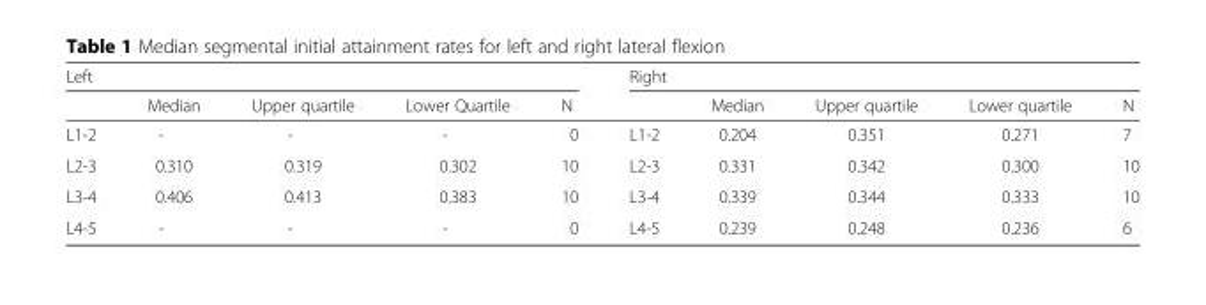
<table><thead><tr><td colspan="5">Left</td><td colspan="5">Right</td></tr><tr><td></td><td>Median</td><td>Upper quartile</td><td>Lower Quartile</td><td>N</td><td></td><td>Median</td><td>Upper quartile</td><td>Lower quartile</td><td>N</td></tr></thead><tbody><tr><td>L1-2</td><td>-</td><td>-</td><td>-</td><td>0</td><td>L1-2</td><td>0.204</td><td>0.351</td><td>0.271</td><td>7</td></tr><tr><td>L2-3</td><td>0.310</td><td>0.319</td><td>0.302</td><td>10</td><td>L2-3</td><td>0.331</td><td>0.342</td><td>0.300</td><td>10</td></tr><tr><td>L3-4</td><td>0.406</td><td>0.413</td><td>0.383</td><td>10</td><td>L3-4</td><td>0.339</td><td>0.344</td><td>0.333</td><td>10</td></tr><tr><td>L4-5</td><td>-</td><td>-</td><td>-</td><td>0</td><td>L4-5</td><td>0.239</td><td>0.248</td><td>0.236</td><td>6</td></tr></tbody></table>